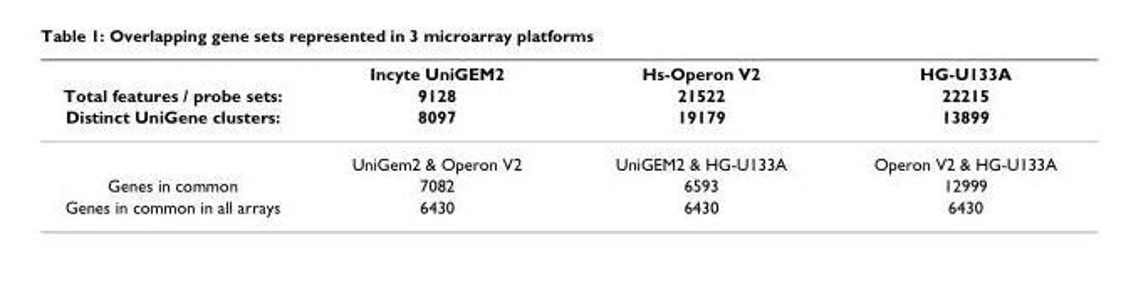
<table><thead><tr><td rowspan="3">Total features / probe sets: Distinct UniGene clusters:</td><td rowspan="3">Incyte UniGEM2 9128 8097</td><td rowspan="3">Hs-Operon V2 21522 19179</td><td rowspan="3">HG-U133A 22215 13899</td></tr><tr></tr><tr></tr></thead><tbody><tr><td></td><td>UniGem2 &amp; Operon V2</td><td>UniGEM2 &amp; HG-U133A</td><td>Operon V2 &amp; HG-U133A</td></tr><tr><td>Genes in common</td><td>7082</td><td>6593</td><td>12999</td></tr><tr><td>Genes in common in all arrays</td><td>6430</td><td>6430</td><td>6430</td></tr></tbody></table>